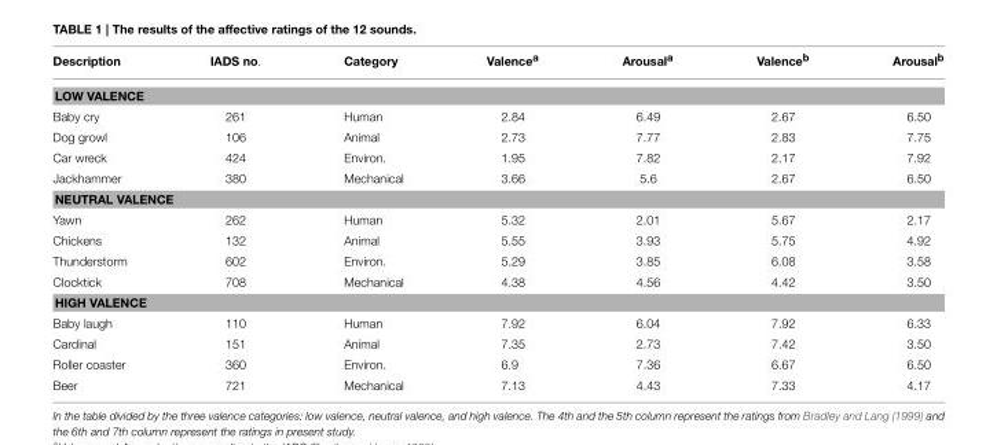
<table><thead><tr><td>Description</td><td>IADS no.</td><td>Category</td><td>Valence<sup>a</sup></td><td>Arousal<sup>a</sup></td><td>Valence<sup>b</sup></td><td>Arousal<sup>b</sup></td></tr></thead><tbody><tr><td colspan="7">LOW VALENCE</td></tr><tr><td>Baby cry</td><td>261</td><td>Human</td><td>2.84</td><td>6.49</td><td>2.67</td><td>6.50</td></tr><tr><td>Dog growl</td><td>106</td><td>Animal</td><td>2.73</td><td>7.77</td><td>2.83</td><td>7.75</td></tr><tr><td>Car wreck</td><td>424</td><td>Environ.</td><td>1.95</td><td>7.82</td><td>2.17</td><td>7.92</td></tr><tr><td>Jackhammer</td><td>380</td><td>Mechanical</td><td>3.66</td><td>5.6</td><td>2.67</td><td>6.50</td></tr><tr><td colspan="7">NEUTRAL VALENCE</td></tr><tr><td>Yawn</td><td>262</td><td>Human</td><td>5.32</td><td>2.01</td><td>5.67</td><td>2.17</td></tr><tr><td>Chickens</td><td>132</td><td>Animal</td><td>5.55</td><td>3.93</td><td>5.75</td><td>4.92</td></tr><tr><td>Thunderstorm</td><td>602</td><td>Environ.</td><td>5.29</td><td>3.85</td><td>6.08</td><td>3.58</td></tr><tr><td>Clocktick</td><td>708</td><td>Mechanical</td><td>4.38</td><td>4.56</td><td>4.42</td><td>3.50</td></tr><tr><td colspan="7">HIGH VALENCE</td></tr><tr><td>Baby laugh</td><td>110</td><td>Human</td><td>7.92</td><td>6.04</td><td>7.92</td><td>6.33</td></tr><tr><td>Cardinal</td><td>151</td><td>Animal</td><td>7.35</td><td>2.73</td><td>7.42</td><td>3.50</td></tr><tr><td>Roller coaster</td><td>360</td><td>Environ.</td><td>6.9</td><td>7.36</td><td>6.67</td><td>6.50</td></tr><tr><td>Beer</td><td>721</td><td>Mechanical</td><td>7.13</td><td>4.43</td><td>7.33</td><td>4.17</td></tr></tbody></table>